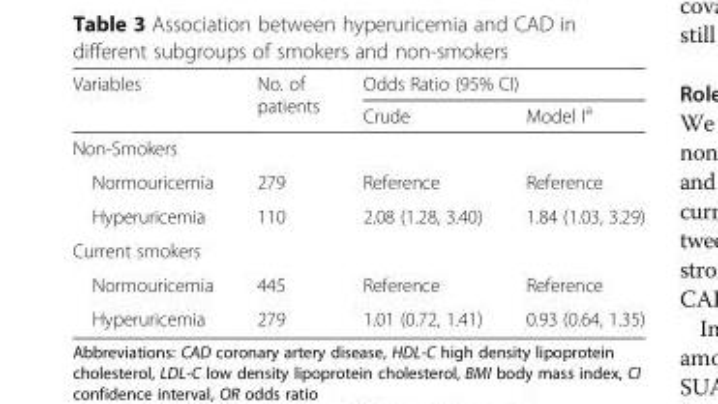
<table><thead><tr><td rowspan="2">Variables</td><td rowspan="2">No. of patients</td><td colspan="2">Odds Ratio (95% CI)</td></tr><tr><td>Crude</td><td>Model I<sup>a</sup></td></tr></thead><tbody><tr><td colspan="4">Non-Smokers</td></tr><tr><td>Normouricemia</td><td>279</td><td>Reference</td><td>Reference</td></tr><tr><td>Hyperuricemia</td><td>110</td><td>2.08 (1.28, 3.40)</td><td>1.84 (1.03, 3.29)</td></tr><tr><td colspan="4">Current smokers</td></tr><tr><td>Normouricemia</td><td>445</td><td>Reference</td><td>Reference</td></tr><tr><td>Hyperuricemia</td><td>279</td><td>1.01 (0.72, 1.41)</td><td>0.93 (0.64, 1.35)</td></tr></tbody></table>